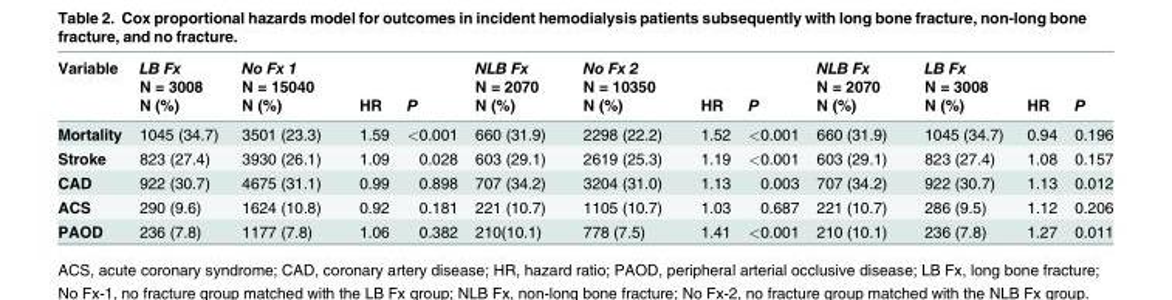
<table><thead><tr><td rowspan="2">Variable</td><td rowspan="2">LB Fx N = 3008 N (%)</td><td rowspan="2">No Fx 1 N = 15040 N (%)</td><td rowspan="2">HR</td><td rowspan="2">P</td><td rowspan="2">NLB Fx N = 2070 N (%)</td><td rowspan="2">No Fx 2 N = 10350 N (%)</td><td rowspan="2">HR</td><td rowspan="2">P</td><td rowspan="2">NLB Fx N = 2070 N (%)</td><td rowspan="2">LB Fx N = 3008 N (%)</td><td rowspan="2">HR</td><td rowspan="2">P</td></tr><tr></tr></thead><tbody><tr><td>Mortality</td><td>1045 (34.7)</td><td>3501 (23.3)</td><td>1.59</td><td>&lt;0.001</td><td>660 (31.9)</td><td>2298 (22.2)</td><td>1.52</td><td>&lt;0.001</td><td>660 (31.9)</td><td>1045 (34.7)</td><td>0.94</td><td>0.196</td></tr><tr><td>Stroke</td><td>823 (27.4)</td><td>3930 (26.1)</td><td>1.09</td><td>0.028</td><td>603 (29.1)</td><td>2619 (25.3)</td><td>1.19</td><td>&lt;0.001</td><td>603 (29.1)</td><td>823 (27.4)</td><td>1.08</td><td>0.157</td></tr><tr><td>CAD</td><td>922 (30.7)</td><td>4675 (31.1)</td><td>0.99</td><td>0.898</td><td>707 (34.2)</td><td>3204 (31.0)</td><td>1.13</td><td>0.003</td><td>707 (34.2)</td><td>922 (30.7)</td><td>1.13</td><td>0.012</td></tr><tr><td>ACS</td><td>290 (9.6)</td><td>1624 (10.8)</td><td>0.92</td><td>0.181</td><td>221 (10.7)</td><td>1105 (10.7)</td><td>1.03</td><td>0.687</td><td>221 (10.7)</td><td>286 (9.5)</td><td>1.12</td><td>0.206</td></tr><tr><td>PAOD</td><td>236 (7.8)</td><td>1177 (7.8)</td><td>1.06</td><td>0.382</td><td>210(10.1)</td><td>778 (7.5)</td><td>1.41</td><td>&lt;0.001</td><td>210 (10.1)</td><td>236 (7.8)</td><td>1.27</td><td>0.011</td></tr></tbody></table>